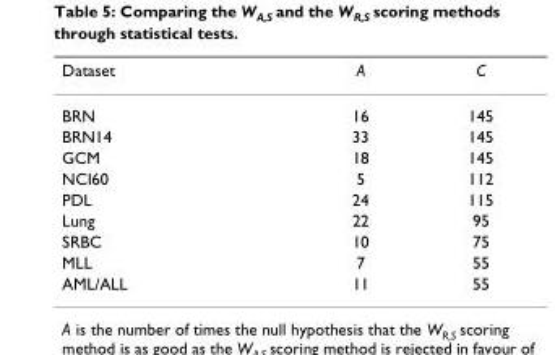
<table><thead><tr><td>Dataset</td><td>A</td><td>C</td></tr></thead><tbody><tr><td>BRN</td><td>16</td><td>145</td></tr><tr><td>BRN14</td><td>33</td><td>145</td></tr><tr><td>GCM</td><td>18</td><td>145</td></tr><tr><td>NCI60</td><td>5</td><td>112</td></tr><tr><td>PDL</td><td>24</td><td>115</td></tr><tr><td>Lung</td><td>22</td><td>95</td></tr><tr><td>SRBC</td><td>10</td><td>75</td></tr><tr><td>MLL</td><td>7</td><td>55</td></tr><tr><td>AML/ALL</td><td>11</td><td>55</td></tr></tbody></table>